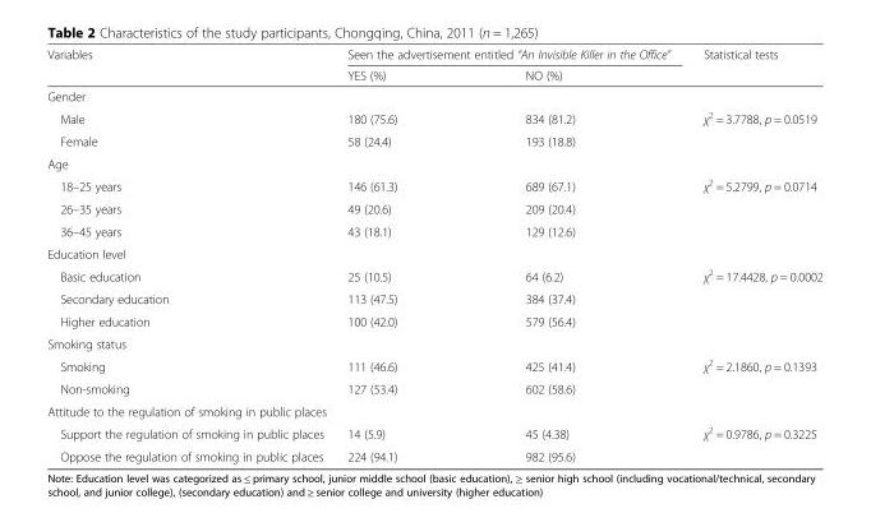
<table><thead><tr><td rowspan="2">Variables</td><td colspan="2">Seen the advertisement entitled “An Invisible Killer in the Office”</td><td rowspan="2">Statistical tests</td></tr><tr><td>YES (%)</td><td>NO (%)</td></tr></thead><tbody><tr><td colspan="4">Gender</td></tr><tr><td>Male</td><td>180 (75.6)</td><td>834 (81.2)</td><td>χ<sup>2</sup> = 3.7788, p = 0.0519</td></tr><tr><td>Female</td><td>58 (24.4)</td><td>193 (18.8)</td><td></td></tr><tr><td colspan="4">Age</td></tr><tr><td>18–25 years</td><td>146 (61.3)</td><td>689 (67.1)</td><td>χ<sup>2</sup> = 5.2799, p = 0.0714</td></tr><tr><td>26–35 years</td><td>49 (20.6)</td><td>209 (20.4)</td><td></td></tr><tr><td>36–45 years</td><td>43 (18.1)</td><td>129 (12.6)</td><td></td></tr><tr><td colspan="4">Education level</td></tr><tr><td>Basic education</td><td>25 (10.5)</td><td>64 (6.2)</td><td>χ<sup>2</sup> = 17.4428, p = 0.0002</td></tr><tr><td>Secondary education</td><td>113 (47.5)</td><td>384 (37.4)</td><td></td></tr><tr><td>Higher education</td><td>100 (42.0)</td><td>579 (56.4)</td><td></td></tr><tr><td colspan="4">Smoking status</td></tr><tr><td>Smoking</td><td>111 (46.6)</td><td>425 (41.4)</td><td>χ<sup>2</sup> = 2.1860, p = 0.1393</td></tr><tr><td>Non-smoking</td><td>127 (53.4)</td><td>602 (58.6)</td><td></td></tr><tr><td colspan="4">Attitude to the regulation of smoking in public places</td></tr><tr><td>Support the regulation of smoking in public places</td><td>14 (5.9)</td><td>45 (4.38)</td><td>χ<sup>2</sup> = 0.9786, p = 0.3225</td></tr><tr><td>Oppose the regulation of smoking in public places</td><td>224 (94.1)</td><td>982 (95.6)</td><td></td></tr></tbody></table>